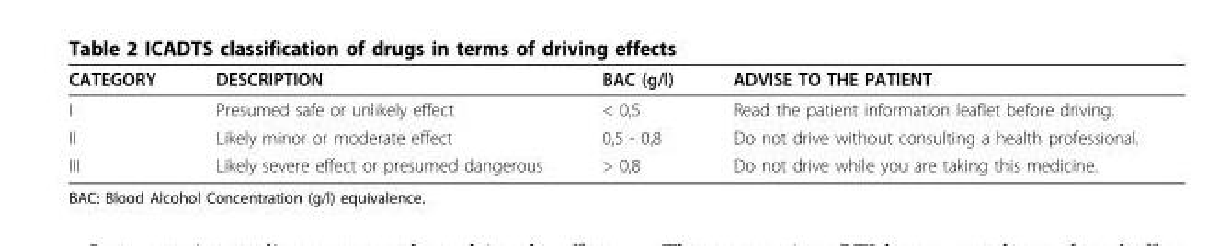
<table><thead><tr><td>CATEGORY</td><td>DESCRIPTION</td><td>BAC (g/l)</td><td>ADVISE TO THE PATIENT</td></tr></thead><tbody><tr><td>I</td><td>Presumed safe or unlikely effect</td><td>&lt; 0,5</td><td>Read the patient information leaflet before driving.</td></tr><tr><td>II</td><td>Likely minor or moderate effect</td><td>0,5 - 0,8</td><td>Do not drive without consulting a health professional.</td></tr><tr><td>III</td><td>Likely severe effect or presumed dangerous</td><td>&gt; 0,8</td><td>Do not drive while you are taking this medicine.</td></tr></tbody></table>